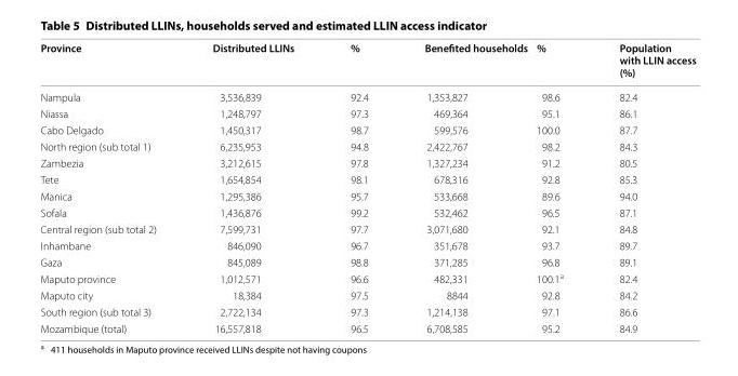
<table><thead><tr><td>Province</td><td>Distributed LLINs</td><td>%</td><td>Benefited households</td><td>%</td><td>Population with LLIN access (%)</td></tr></thead><tbody><tr><td>Nampula</td><td>3,536,839</td><td>92.4</td><td>1,353,827</td><td>98.6</td><td>82.4</td></tr><tr><td>Niassa</td><td>1,248,797</td><td>97.3</td><td>469,364</td><td>95.1</td><td>86.1</td></tr><tr><td>Cabo Delgado</td><td>1,450,317</td><td>98.7</td><td>599,576</td><td>100.0</td><td>87.7</td></tr><tr><td>North region (sub total 1)</td><td>6,235,953</td><td>94.8</td><td>2,422,767</td><td>98.2</td><td>84.3</td></tr><tr><td>Zambezia</td><td>3,212,615</td><td>97.8</td><td>1,327,234</td><td>91.2</td><td>80.5</td></tr><tr><td>Tete</td><td>1,654,854</td><td>98.1</td><td>678,316</td><td>92.8</td><td>85.3</td></tr><tr><td>Manica</td><td>1,295,386</td><td>95.7</td><td>533,668</td><td>89.6</td><td>94.0</td></tr><tr><td>Sofala</td><td>1,436,876</td><td>99.2</td><td>532,462</td><td>96.5</td><td>87.1</td></tr><tr><td>Central region (sub total 2)</td><td>7,599,731</td><td>97.7</td><td>3,071,680</td><td>92.1</td><td>84.8</td></tr><tr><td>Inhambane</td><td>846,090</td><td>96.7</td><td>351,678</td><td>93.7</td><td>89.7</td></tr><tr><td>Gaza</td><td>845,089</td><td>98.8</td><td>371,285</td><td>96.8</td><td>89.1</td></tr><tr><td>Maputo province</td><td>1,012,571</td><td>96.6</td><td>482,331</td><td>100.1<sup>a</sup></td><td>82.4</td></tr><tr><td>Maputo city</td><td>18,384</td><td>97.5</td><td>8844</td><td>92.8</td><td>84.2</td></tr><tr><td>South region (sub total 3)</td><td>2,722,134</td><td>97.3</td><td>1,214,138</td><td>97.1</td><td>86.6</td></tr><tr><td>Mozambique (total)</td><td>16,557,818</td><td>96.5</td><td>6,708,585</td><td>95.2</td><td>84.9</td></tr></tbody></table>